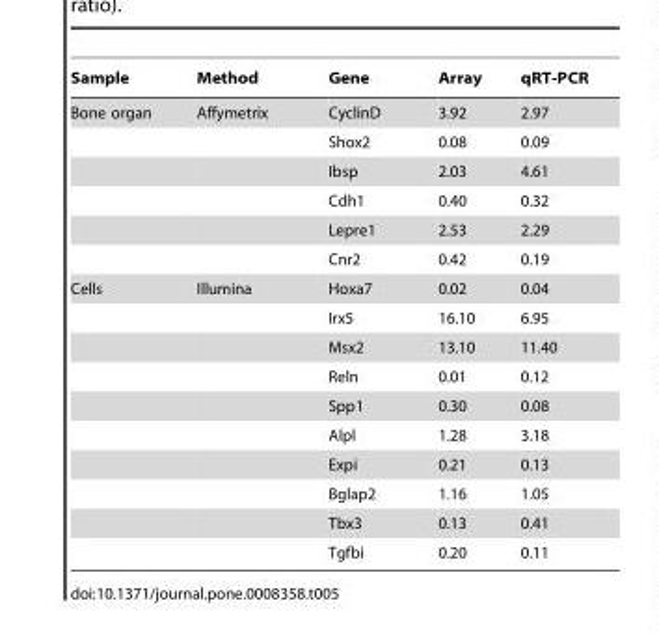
<table><thead><tr><td>Sample</td><td>Method</td><td>Gene</td><td>Array</td><td>qRT-PCR</td></tr></thead><tbody><tr><td rowspan="6">Bone organ</td><td>Affymetrix</td><td>CyclinD</td><td>3.92</td><td>2.97</td></tr><tr><td></td><td>Shox2</td><td>0.08</td><td>0.09</td></tr><tr><td></td><td>Ibsp</td><td>2.03</td><td>4.61</td></tr><tr><td></td><td>Cdh1</td><td>0.40</td><td>0.32</td></tr><tr><td></td><td>Lepre1</td><td>2.53</td><td>2.29</td></tr><tr><td></td><td>Cnr2</td><td>0.42</td><td>0.19</td></tr><tr><td rowspan="10">Cells</td><td>Illumina</td><td>Hoxa7</td><td>0.02</td><td>0.04</td></tr><tr><td></td><td>Irx5</td><td>16.10</td><td>6.95</td></tr><tr><td></td><td>Msx2</td><td>13.10</td><td>11.40</td></tr><tr><td></td><td>Reln</td><td>0.01</td><td>0.12</td></tr><tr><td></td><td>Spp1</td><td>0.30</td><td>0.08</td></tr><tr><td></td><td>Alpl</td><td>1.28</td><td>3.18</td></tr><tr><td></td><td>Expi</td><td>0.21</td><td>0.13</td></tr><tr><td></td><td>Bglap2</td><td>1.16</td><td>1.05</td></tr><tr><td></td><td>Tbx3</td><td>0.13</td><td>0.41</td></tr><tr><td></td><td>Tgfbi</td><td>0.20</td><td>0.11</td></tr></tbody></table>